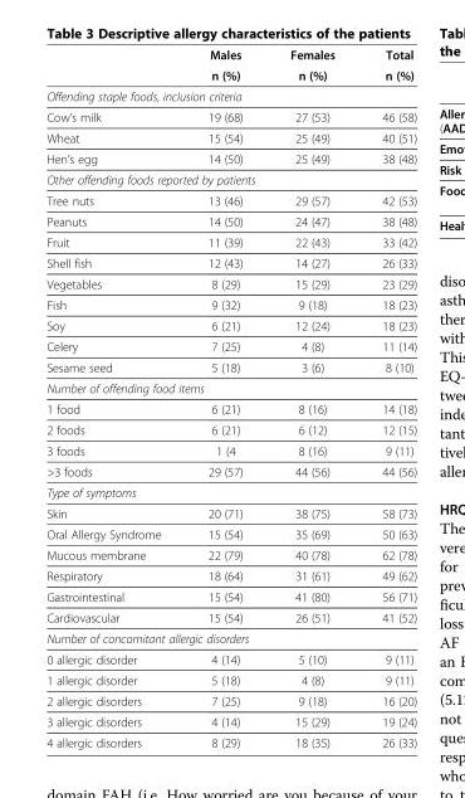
<table><thead><tr><td rowspan="2"></td><td rowspan="2">Males n (%)</td><td rowspan="2">Females n (%)</td><td rowspan="2">Total n (%)</td></tr><tr></tr></thead><tbody><tr><td colspan="4">Offending staple foods, inclusion criteria</td></tr><tr><td>Cow’s milk</td><td>19 (68)</td><td>27 (53)</td><td>46 (58)</td></tr><tr><td>Wheat</td><td>15 (54)</td><td>25 (49)</td><td>40 (51)</td></tr><tr><td>Hen’s egg</td><td>14 (50)</td><td>25 (49)</td><td>38 (48)</td></tr><tr><td colspan="4">Other offending foods reported by patients</td></tr><tr><td>Tree nuts</td><td>13 (46)</td><td>29 (57)</td><td>42 (53)</td></tr><tr><td>Peanuts</td><td>14 (50)</td><td>24 (47)</td><td>38 (48)</td></tr><tr><td>Fruit</td><td>11 (39)</td><td>22 (43)</td><td>33 (42)</td></tr><tr><td>Shell fish</td><td>12 (43)</td><td>14 (27)</td><td>26 (33)</td></tr><tr><td>Vegetables</td><td>8 (29)</td><td>15 (29)</td><td>23 (29)</td></tr><tr><td>Fish</td><td>9 (32)</td><td>9 (18)</td><td>18 (23)</td></tr><tr><td>Soy</td><td>6 (21)</td><td>12 (24)</td><td>18 (23)</td></tr><tr><td>Celery</td><td>7 (25)</td><td>4 (8)</td><td>11 (14)</td></tr><tr><td>Sesame seed</td><td>5 (18)</td><td>3 (6)</td><td>8 (10)</td></tr><tr><td colspan="4">Number of offending food items</td></tr><tr><td>1 food</td><td>6 (21)</td><td>8 (16)</td><td>14 (18)</td></tr><tr><td>2 foods</td><td>6 (21)</td><td>6 (12)</td><td>12 (15)</td></tr><tr><td>3 foods</td><td>1 (4</td><td>8 (16)</td><td>9 (11)</td></tr><tr><td>&gt;3 foods</td><td>29 (57)</td><td>44 (56)</td><td>44 (56)</td></tr><tr><td colspan="4">Type of symptoms</td></tr><tr><td>Skin</td><td>20 (71)</td><td>38 (75)</td><td>58 (73)</td></tr><tr><td>Oral Allergy Syndrome</td><td>15 (54)</td><td>35 (69)</td><td>50 (63)</td></tr><tr><td>Mucous membrane</td><td>22 (79)</td><td>40 (78)</td><td>62 (78)</td></tr><tr><td>Respiratory</td><td>18 (64)</td><td>31 (61)</td><td>49 (62)</td></tr><tr><td>Gastrointestinal</td><td>15 (54)</td><td>41 (80)</td><td>56 (71)</td></tr><tr><td>Cardiovascular</td><td>15 (54)</td><td>26 (51)</td><td>41 (52)</td></tr><tr><td colspan="4">Number of concomitant allergic disorders</td></tr><tr><td>0 allergic disorder</td><td>4 (14)</td><td>5 (10)</td><td>9 (11)</td></tr><tr><td>1 allergic disorder</td><td>5 (18)</td><td>4 (8)</td><td>9 (11)</td></tr><tr><td>2 allergic disorders</td><td>7 (25)</td><td>9 (18)</td><td>16 (20)</td></tr><tr><td>3 allergic disorders</td><td>4 (14)</td><td>15 (29)</td><td>19 (24)</td></tr><tr><td>4 allergic disorders</td><td>8 (29)</td><td>18 (35)</td><td>26 (33)</td></tr></tbody></table>